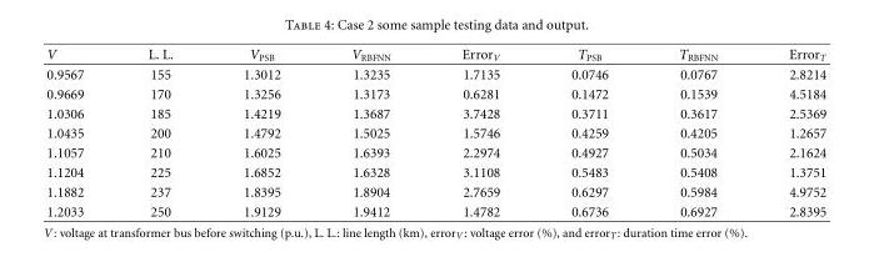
<table><thead><tr><td>V</td><td>L. L.</td><td>V<sub>PSB</sub></td><td>V<sub>RBFNN</sub></td><td>Error<sub>V</sub></td><td>T<sub>PSB</sub></td><td>T<sub>RBFNN</sub></td><td>Error<sub>T</sub></td></tr></thead><tbody><tr><td>0.9567</td><td>155</td><td>1.3012</td><td>1.3235</td><td>1.7135</td><td>0.0746</td><td>0.0767</td><td>2.8214</td></tr><tr><td>0.9669</td><td>170</td><td>1.3256</td><td>1.3173</td><td>0.6281</td><td>0.1472</td><td>0.1539</td><td>4.5184</td></tr><tr><td>1.0306</td><td>185</td><td>1.4219</td><td>1.3687</td><td>3.7428</td><td>0.3711</td><td>0.3617</td><td>2.5369</td></tr><tr><td>1.0435</td><td>200</td><td>1.4792</td><td>1.5025</td><td>1.5746</td><td>0.4259</td><td>0.4205</td><td>1.2657</td></tr><tr><td>1.1057</td><td>210</td><td>1.6025</td><td>1.6393</td><td>2.2974</td><td>0.4927</td><td>0.5034</td><td>2.1624</td></tr><tr><td>1.1204</td><td>225</td><td>1.6852</td><td>1.6328</td><td>3.1108</td><td>0.5483</td><td>0.5408</td><td>1.3751</td></tr><tr><td>1.1882</td><td>237</td><td>1.8395</td><td>1.8904</td><td>2.7659</td><td>0.6297</td><td>0.5984</td><td>4.9752</td></tr><tr><td>1.2033</td><td>250</td><td>1.9129</td><td>1.9412</td><td>1.4782</td><td>0.6736</td><td>0.6927</td><td>2.8395</td></tr></tbody></table>